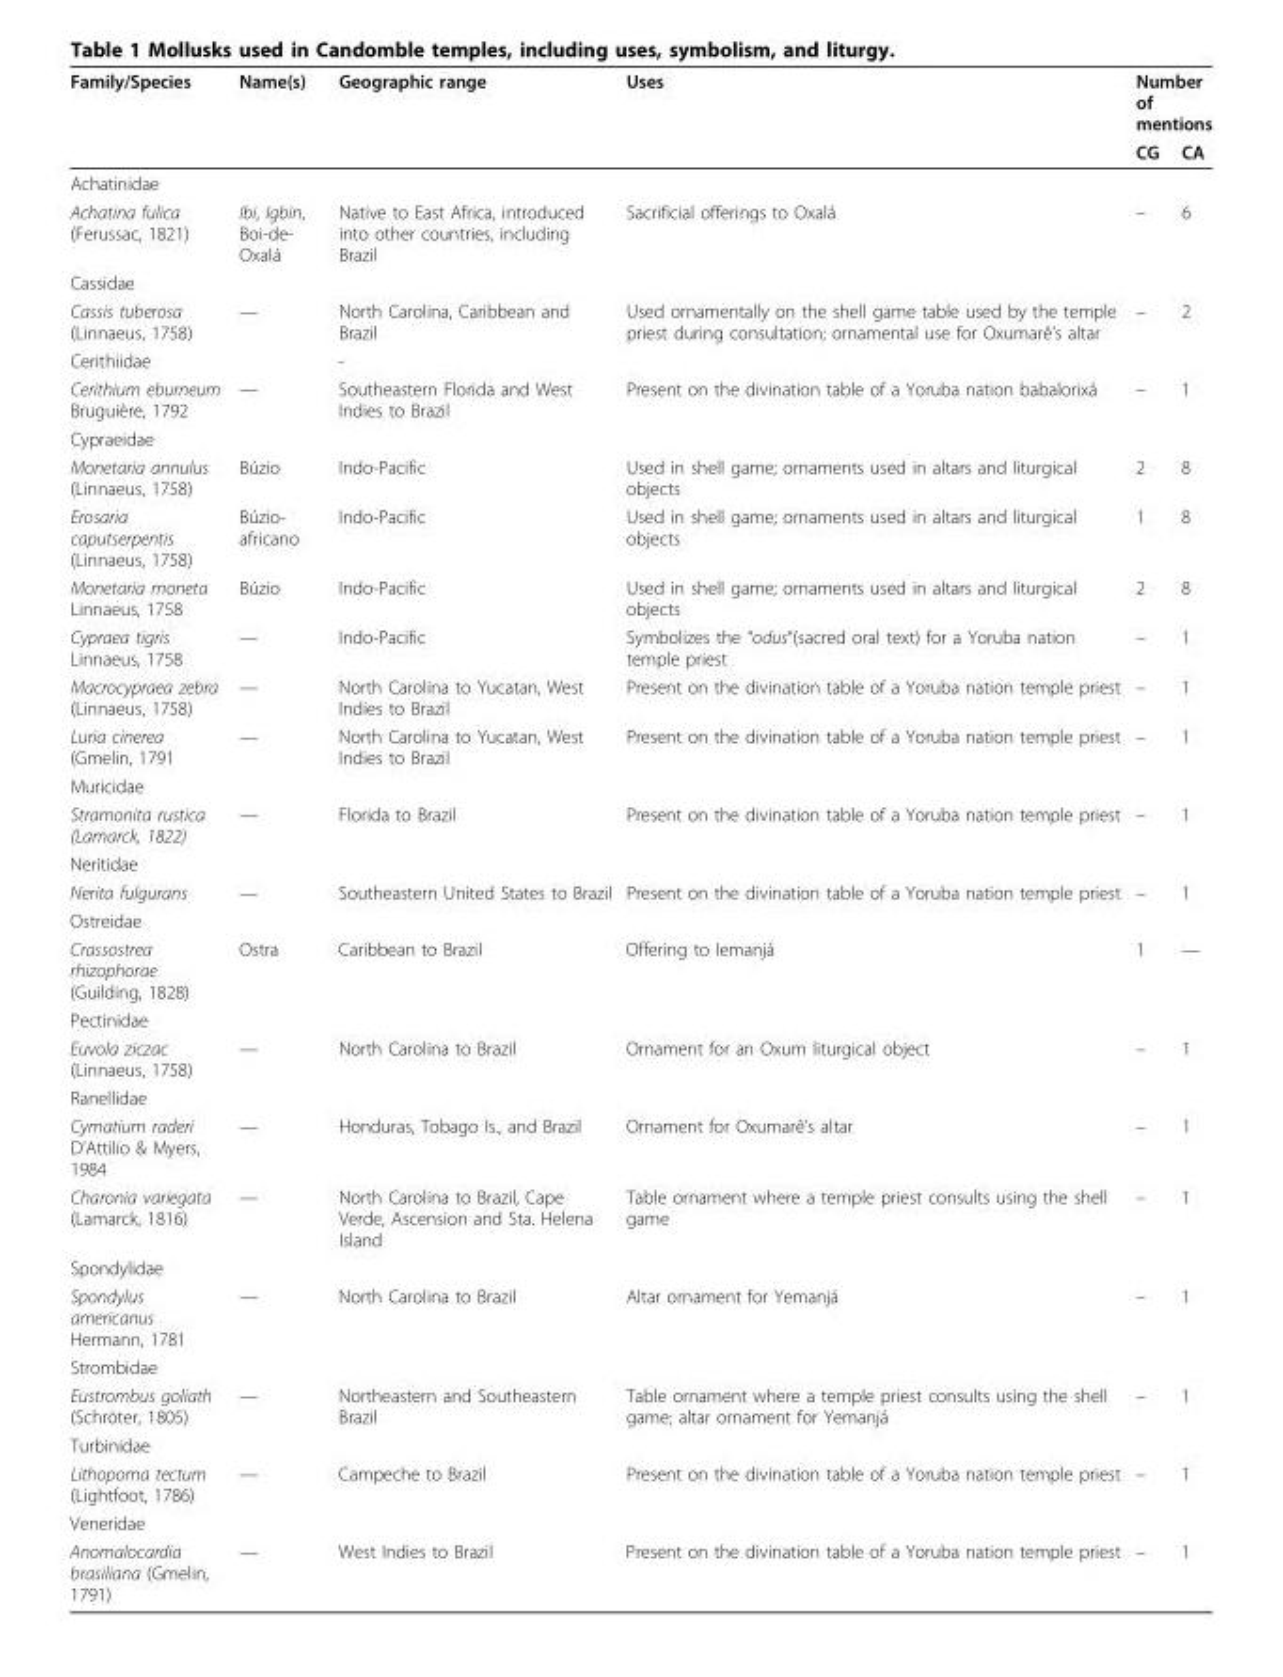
<table><thead><tr><td rowspan="2">Family/Species</td><td rowspan="2">Name(s)</td><td rowspan="2">Geographic range</td><td rowspan="2">Uses</td><td colspan="2">Number of mentions</td></tr><tr><td>CG</td><td>CA</td></tr></thead><tbody><tr><td colspan="6">Achatinidae</td></tr><tr><td>Achatina fulica (Ferussac, 1821)</td><td>Ibi, Igbin, Boi-de- Oxalá</td><td>Native to East Africa, introduced into other countries, including Brazil</td><td>Sacrificial offerings to Oxalá</td><td>–</td><td>6</td></tr><tr><td colspan="6">Cassidae</td></tr><tr><td>Cassis tuberosa (Linnaeus, 1758)</td><td>—</td><td>North Carolina, Caribbean and Brazil</td><td>Used ornamentally on the shell game table used by the temple priest during consultation; ornamental use for Oxumarê’s altar</td><td>–</td><td>2</td></tr><tr><td>Cerithiidae</td><td></td><td>-</td><td></td><td></td><td></td></tr><tr><td>Cerithium eburneum Bruguière, 1792</td><td>—</td><td>Southeastern Florida and West Indies to Brazil</td><td>Present on the divination table of a Yoruba nation babalorixá</td><td>–</td><td>1</td></tr><tr><td colspan="6">Cypraeidae</td></tr><tr><td>Monetaria annulus (Linnaeus, 1758)</td><td>Búzio</td><td>Indo-Pacific</td><td>Used in shell game; ornaments used in altars and liturgical objects</td><td>2</td><td>8</td></tr><tr><td>Erosaria caputserpentis (Linnaeus, 1758)</td><td>Búzio- africano</td><td>Indo-Pacific</td><td>Used in shell game; ornaments used in altars and liturgical objects</td><td>1</td><td>8</td></tr><tr><td>Monetaria moneta Linnaeus, 1758</td><td>Búzio</td><td>Indo-Pacific</td><td>Used in shell game; ornaments used in altars and liturgical objects</td><td>2</td><td>8</td></tr><tr><td>Cypraea tigris Linnaeus, 1758</td><td>—</td><td>Indo-Pacific</td><td>Symbolizes the “odus“(sacred oral text) for a Yoruba nation temple priest</td><td>–</td><td>1</td></tr><tr><td>Macrocypraea zebra (Linnaeus, 1758)</td><td>—</td><td>North Carolina to Yucatan, West Indies to Brazil</td><td>Present on the divination table of a Yoruba nation temple priest</td><td>–</td><td>1</td></tr><tr><td>Luria cinerea (Gmelin, 1791</td><td>—</td><td>North Carolina to Yucatan, West Indies to Brazil</td><td>Present on the divination table of a Yoruba nation temple priest</td><td>–</td><td>1</td></tr><tr><td colspan="6">Muricidae</td></tr><tr><td>Stramonita rustica (Lamarck, 1822)</td><td>—</td><td>Florida to Brazil</td><td>Present on the divination table of a Yoruba nation temple priest</td><td>–</td><td>1</td></tr><tr><td colspan="6">Neritidae</td></tr><tr><td>Nerita fulgurans</td><td>—</td><td>Southeastern United States to Brazil</td><td>Present on the divination table of a Yoruba nation temple priest</td><td>–</td><td>1</td></tr><tr><td colspan="6">Ostreidae</td></tr><tr><td>Crassostrea rhizophorae (Guilding, 1828)</td><td>Ostra</td><td>Caribbean to Brazil</td><td>Offering to Iemanjá</td><td>1</td><td>—</td></tr><tr><td colspan="6">Pectinidae</td></tr><tr><td>Euvola ziczac (Linnaeus, 1758)</td><td>—</td><td>North Carolina to Brazil</td><td>Ornament for an Oxum liturgical object</td><td>–</td><td>1</td></tr><tr><td colspan="6">Ranellidae</td></tr><tr><td>Cymatium raderi D’Attilio &amp; Myers, 1984</td><td>—</td><td>Honduras, Tobago Is., and Brazil</td><td>Ornament for Oxumarê’s altar</td><td>–</td><td>1</td></tr><tr><td>Charonia variegata (Lamarck, 1816)</td><td>—</td><td>North Carolina to Brazil, Cape Verde, Ascension and Sta. Helena Island</td><td>Table ornament where a temple priest consults using the shell game</td><td>–</td><td>1</td></tr><tr><td colspan="6">Spondylidae</td></tr><tr><td>Spondylus americanus Hermann, 1781</td><td>—</td><td>North Carolina to Brazil</td><td>Altar ornament for Yemanjá</td><td>–</td><td>1</td></tr><tr><td colspan="6">Strombidae</td></tr><tr><td>Eustrombus goliath (Schröter, 1805)</td><td>—</td><td>Northeastern and Southeastern Brazil</td><td>Table ornament where a temple priest consults using the shell game; altar ornament for Yemanjá</td><td>–</td><td>1</td></tr><tr><td colspan="6">Turbinidae</td></tr><tr><td>Lithopoma tectum (Lightfoot, 1786)</td><td>—</td><td>Campeche to Brazil</td><td>Present on the divination table of a Yoruba nation temple priest</td><td>–</td><td>1</td></tr><tr><td colspan="6">Veneridae</td></tr><tr><td>Anomalocardia brasiliana (Gmelin, 1791)</td><td>—</td><td>West Indies to Brazil</td><td>Present on the divination table of a Yoruba nation temple priest</td><td>–</td><td>1</td></tr></tbody></table>